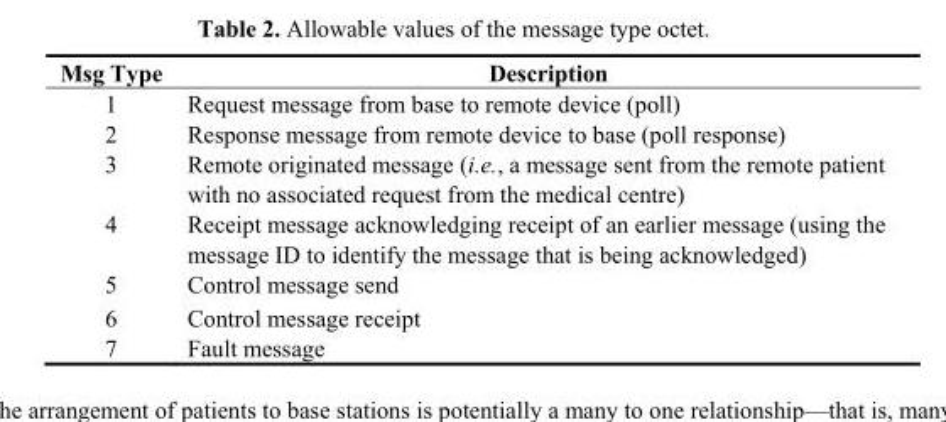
<table><thead><tr><td>Msg Type</td><td>Description</td></tr></thead><tbody><tr><td>1</td><td>Request message from base to remote device (poll)</td></tr><tr><td>2</td><td>Response message from remote device to base (poll response)</td></tr><tr><td>3</td><td>Remote originated message (i.e., a message sent from the remote patient with no associated request from the medical centre)</td></tr><tr><td>4</td><td>Receipt message acknowledging receipt of an earlier message (using the message ID to identify the message that is being acknowledged)</td></tr><tr><td>5</td><td>Control message send</td></tr><tr><td>6</td><td>Control message receipt</td></tr><tr><td>7</td><td>Fault message</td></tr></tbody></table>